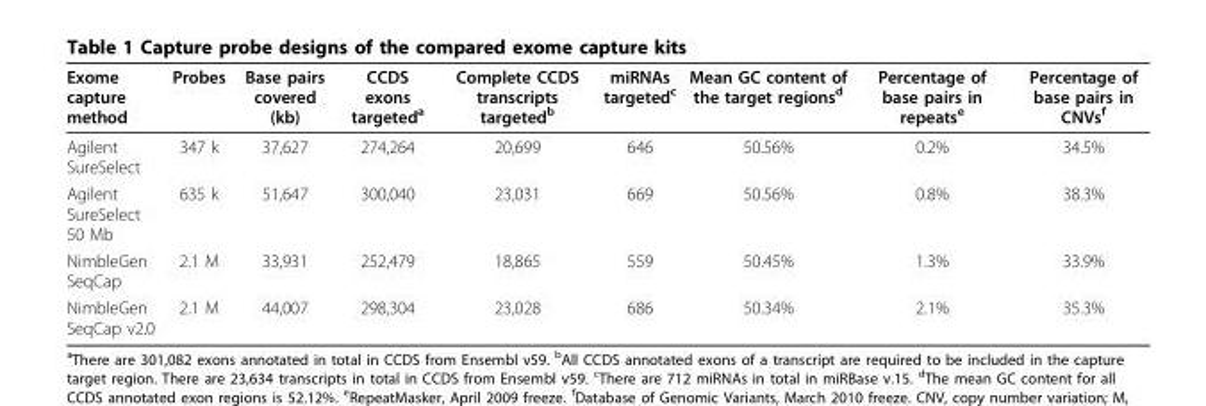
<table><thead><tr><td>Exome capture method</td><td>Probes</td><td>Base pairs covered (kb)</td><td>CCDS exons targeted<sup>a</sup></td><td>Complete CCDS transcripts targeted<sup>b</sup></td><td>miRNAs targeted<sup>c</sup></td><td>Mean GC content of the target regions<sup>d</sup></td><td>Percentage of base pairs in repeats<sup>e</sup></td><td>Percentage of base pairs in CNVs<sup>f</sup></td></tr></thead><tbody><tr><td>Agilent SureSelect</td><td>347 k</td><td>37,627</td><td>274,264</td><td>20,699</td><td>646</td><td>50.56%</td><td>0.2%</td><td>34.5%</td></tr><tr><td>Agilent SureSelect 50 Mb</td><td>635 k</td><td>51,647</td><td>300,040</td><td>23,031</td><td>669</td><td>50.56%</td><td>0.8%</td><td>38.3%</td></tr><tr><td>NimbleGen SeqCap</td><td>2.1 M</td><td>33,931</td><td>252,479</td><td>18,865</td><td>559</td><td>50.45%</td><td>1.3%</td><td>33.9%</td></tr><tr><td>NimbleGen SeqCap v2.0</td><td>2.1 M</td><td>44,007</td><td>298,304</td><td>23,028</td><td>686</td><td>50.34%</td><td>2.1%</td><td>35.3%</td></tr></tbody></table>